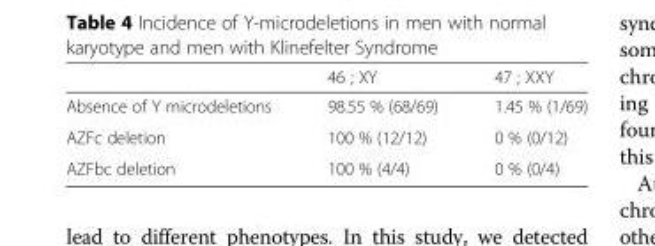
<table><thead><tr><td></td><td>46 ; XY</td><td>47 ; XXY</td></tr></thead><tbody><tr><td>Absence of Y microdeletions</td><td>98.55 % (68/69)</td><td>1.45 % (1/69)</td></tr><tr><td>AZFc deletion</td><td>100 % (12/12)</td><td>0 % (0/12)</td></tr><tr><td>AZFbc deletion</td><td>100 % (4/4)</td><td>0 % (0/4)</td></tr></tbody></table>